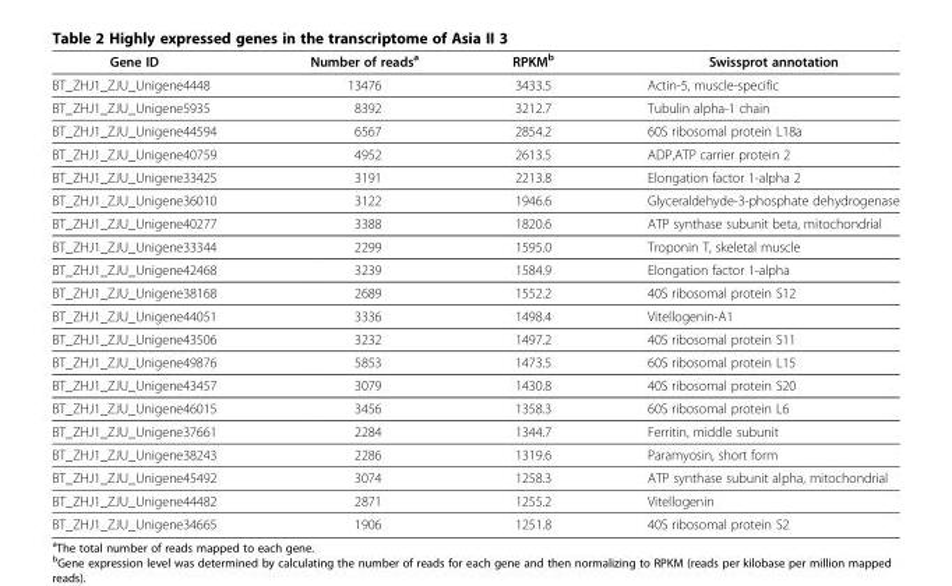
<table><thead><tr><td>Gene ID</td><td>Number of reads<sup>a</sup></td><td>RPKM<sup>b</sup></td><td>Swissprot annotation</td></tr></thead><tbody><tr><td>BT_ZHJ1_ZJU_Unigene4448</td><td>13476</td><td>3433.5</td><td>Actin-5, muscle-specific</td></tr><tr><td>BT_ZHJ1_ZJU_Unigene5935</td><td>8392</td><td>3212.7</td><td>Tubulin alpha-1 chain</td></tr><tr><td>BT_ZHJ1_ZJU_Unigene44594</td><td>6567</td><td>2854.2</td><td>60S ribosomal protein L18a</td></tr><tr><td>BT_ZHJ1_ZJU_Unigene40759</td><td>4952</td><td>2613.5</td><td>ADP,ATP carrier protein 2</td></tr><tr><td>BT_ZHJ1_ZJU_Unigene33425</td><td>3191</td><td>2213.8</td><td>Elongation factor 1-alpha 2</td></tr><tr><td>BT_ZHJ1_ZJU_Unigene36010</td><td>3122</td><td>1946.6</td><td>Glyceraldehyde-3-phosphate dehydrogenase</td></tr><tr><td>BT_ZHJ1_ZJU_Unigene40277</td><td>3388</td><td>1820.6</td><td>ATP synthase subunit beta, mitochondrial</td></tr><tr><td>BT_ZHJ1_ZJU_Unigene33344</td><td>2299</td><td>1595.0</td><td>Troponin T, skeletal muscle</td></tr><tr><td>BT_ZHJ1_ZJU_Unigene42468</td><td>3239</td><td>1584.9</td><td>Elongation factor 1-alpha</td></tr><tr><td>BT_ZHJ1_ZJU_Unigene38168</td><td>2689</td><td>1552.2</td><td>40S ribosomal protein S12</td></tr><tr><td>BT_ZHJ1_ZJU_Unigene44051</td><td>3336</td><td>1498.4</td><td>Vitellogenin-A1</td></tr><tr><td>BT_ZHJ1_ZJU_Unigene43506</td><td>3232</td><td>1497.2</td><td>40S ribosomal protein S11</td></tr><tr><td>BT_ZHJ1_ZJU_Unigene49876</td><td>5853</td><td>1473.5</td><td>60S ribosomal protein L15</td></tr><tr><td>BT_ZHJ1_ZJU_Unigene43457</td><td>3079</td><td>1430.8</td><td>40S ribosomal protein S20</td></tr><tr><td>BT_ZHJ1_ZJU_Unigene46015</td><td>3456</td><td>1358.3</td><td>60S ribosomal protein L6</td></tr><tr><td>BT_ZHJ1_ZJU_Unigene37661</td><td>2284</td><td>1344.7</td><td>Ferritin, middle subunit</td></tr><tr><td>BT_ZHJ1_ZJU_Unigene38243</td><td>2286</td><td>1319.6</td><td>Paramyosin, short form</td></tr><tr><td>BT_ZHJ1_ZJU_Unigene45492</td><td>3074</td><td>1258.3</td><td>ATP synthase subunit alpha, mitochondrial</td></tr><tr><td>BT_ZHJ1_ZJU_Unigene44482</td><td>2871</td><td>1255.2</td><td>Vitellogenin</td></tr><tr><td>BT_ZHJ1_ZJU_Unigene34665</td><td>1906</td><td>1251.8</td><td>40S ribosomal protein S2</td></tr></tbody></table>